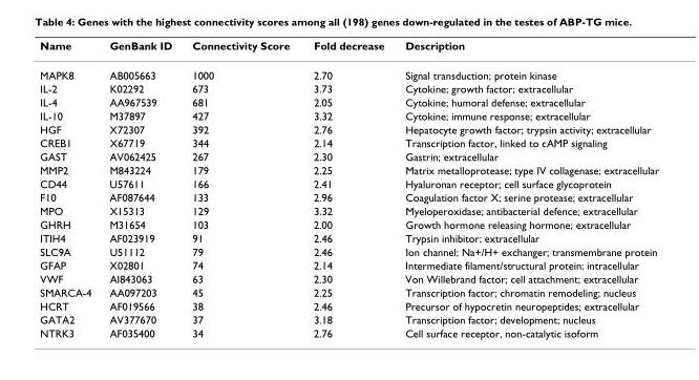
<table><thead><tr><td>Name</td><td>GenBank ID</td><td>Connectivity Score</td><td>Fold decrease</td><td>Description</td></tr></thead><tbody><tr><td>MAPK8</td><td>AB005663</td><td>1000</td><td>2.70</td><td>Signal transduction; protein kinase</td></tr><tr><td>IL-2</td><td>K02292</td><td>673</td><td>3.73</td><td>Cytokine; growth factor; extracellular</td></tr><tr><td>IL-4</td><td>AA967539</td><td>681</td><td>2.05</td><td>Cytokine; humoral defense; extracellular</td></tr><tr><td>IL-10</td><td>M37897</td><td>427</td><td>3.32</td><td>Cytokine; immune response; extracellular</td></tr><tr><td>HGF</td><td>X72307</td><td>392</td><td>2.76</td><td>Hepatocyte growth factor; trypsin activity; extracellular</td></tr><tr><td>CREB1</td><td>X67719</td><td>344</td><td>2.14</td><td>Transcription factor, linked to cAMP signaling</td></tr><tr><td>GAST</td><td>AV062425</td><td>267</td><td>2.30</td><td>Gastrin; extracellular</td></tr><tr><td>MMP2</td><td>M843224</td><td>179</td><td>2.25</td><td>Matrix metalloprotease; type IV collagenase; extracellular</td></tr><tr><td>CD44</td><td>U57611</td><td>166</td><td>2.41</td><td>Hyaluronan receptor; cell surface glycoprotein</td></tr><tr><td>F10</td><td>AF087644</td><td>133</td><td>2.96</td><td>Coagulation factor X; serine protease; extracellular</td></tr><tr><td>MPO</td><td>X15313</td><td>129</td><td>3.32</td><td>Myeloperoxidase; antibacterial defence; extracellular</td></tr><tr><td>GHRH</td><td>M31654</td><td>103</td><td>2.00</td><td>Growth hormone releasing hormone; extracellular</td></tr><tr><td>ITIH4</td><td>AF023919</td><td>91</td><td>2.46</td><td>Trypsin inhibitor; extracellular</td></tr><tr><td>SLC9A</td><td>U51112</td><td>79</td><td>2.46</td><td>Ion channel; Na+/H+ exchanger; transmembrane protein</td></tr><tr><td>GFAP</td><td>X02801</td><td>74</td><td>2.14</td><td>Intermediate filament/structural protein; intracellular</td></tr><tr><td>VWF</td><td>AI843063</td><td>63</td><td>2.30</td><td>Von Willebrand factor; cell attachment; extracellular</td></tr><tr><td>SMARCA-4</td><td>AA097203</td><td>45</td><td>2.25</td><td>Transcription factor; chromatin remodeling; nucleus</td></tr><tr><td>HCRT</td><td>AF019566</td><td>38</td><td>2.46</td><td>Precursor of hypocretin neuropeptides; extracellular</td></tr><tr><td>GATA2</td><td>AV377670</td><td>37</td><td>3.18</td><td>Transcription factor; development; nucleus</td></tr><tr><td>NTRK3</td><td>AF035400</td><td>34</td><td>2.76</td><td>Cell surface receptor, non-catalytic isoform</td></tr></tbody></table>